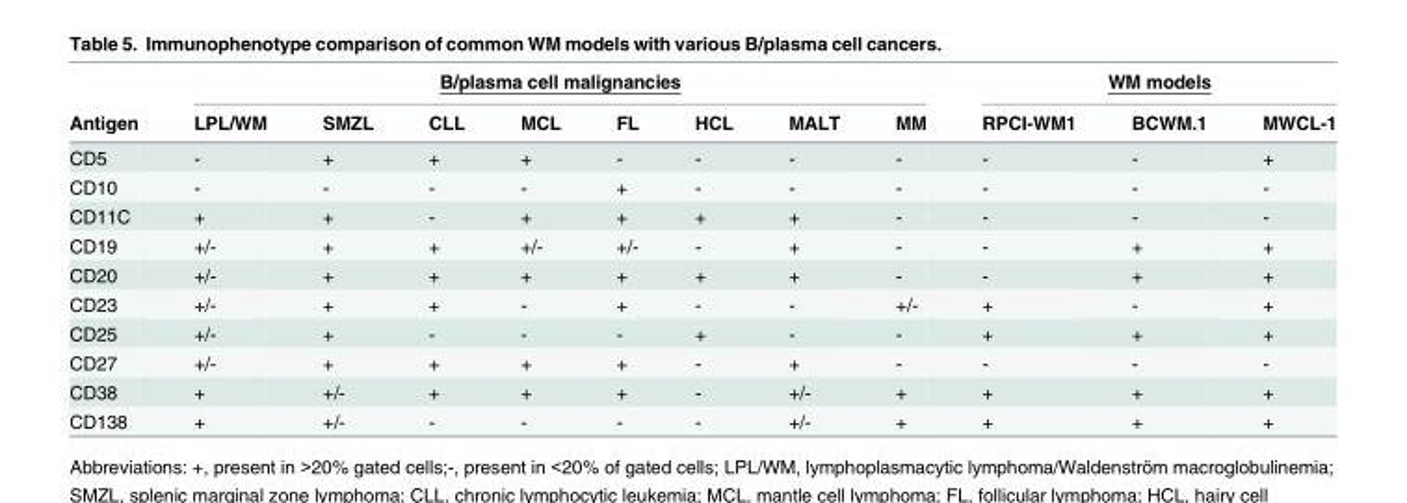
<table><thead><tr><td rowspan="2">Antigen</td><td colspan="8">B/plasma cell malignancies</td><td colspan="3">WM models</td></tr><tr><td>LPL/WM</td><td>SMZL</td><td>CLL</td><td>MCL</td><td>FL</td><td>HCL</td><td>MALT</td><td>MM</td><td>RPCI-WM1</td><td>BCWM.1</td><td>MWCL-1</td></tr></thead><tbody><tr><td>CD5</td><td>-</td><td>+</td><td>+</td><td>+</td><td>-</td><td>-</td><td>-</td><td>-</td><td>-</td><td>-</td><td>+</td></tr><tr><td>CD10</td><td>-</td><td>-</td><td>-</td><td>-</td><td>+</td><td>-</td><td>-</td><td>-</td><td>-</td><td>-</td><td>-</td></tr><tr><td>CD11C</td><td>+</td><td>+</td><td>-</td><td>+</td><td>+</td><td>+</td><td>+</td><td>-</td><td>-</td><td>-</td><td>-</td></tr><tr><td>CD19</td><td>+/-</td><td>+</td><td>+</td><td>+/-</td><td>+/-</td><td>-</td><td>+</td><td>-</td><td>-</td><td>+</td><td>+</td></tr><tr><td>CD20</td><td>+/-</td><td>+</td><td>+</td><td>+</td><td>+</td><td>+</td><td>+</td><td>-</td><td>-</td><td>+</td><td>+</td></tr><tr><td>CD23</td><td>+/-</td><td>+</td><td>+</td><td>-</td><td>+</td><td>-</td><td>-</td><td>+/-</td><td>+</td><td>-</td><td>+</td></tr><tr><td>CD25</td><td>+/-</td><td>+</td><td>-</td><td>-</td><td>-</td><td>+</td><td>-</td><td>-</td><td>+</td><td>+</td><td>+</td></tr><tr><td>CD27</td><td>+/-</td><td>+</td><td>+</td><td>+</td><td>+</td><td>-</td><td>+</td><td>-</td><td>-</td><td>-</td><td>-</td></tr><tr><td>CD38</td><td>+</td><td>+/-</td><td>+</td><td>+</td><td>+</td><td>-</td><td>+/-</td><td>+</td><td>+</td><td>+</td><td>+</td></tr><tr><td>CD138</td><td>+</td><td>+/-</td><td>-</td><td>-</td><td>-</td><td>-</td><td>+/-</td><td>+</td><td>+</td><td>+</td><td>+</td></tr></tbody></table>